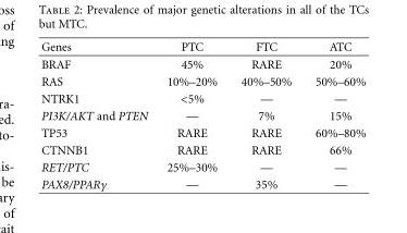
<table><thead><tr><td>Genes</td><td>PTC</td><td>FTC</td><td>ATC</td></tr></thead><tbody><tr><td>BRAF</td><td>45%</td><td>RARE</td><td>20%</td></tr><tr><td>RAS</td><td>10%–20%</td><td>40%–50%</td><td>50%–60%</td></tr><tr><td>NTRK1</td><td>&lt;5%</td><td>—</td><td>—</td></tr><tr><td>PI3K/AKT and PTEN</td><td>—</td><td>7%</td><td>15%</td></tr><tr><td>TP53</td><td>RARE</td><td>RARE</td><td>60%–80%</td></tr><tr><td>CTNNB1</td><td>RARE</td><td>RARE</td><td>66%</td></tr><tr><td>RET/PTC</td><td>25%–30%</td><td>—</td><td>—</td></tr><tr><td>PAX8/PPARγ</td><td>—</td><td>35%</td><td>—</td></tr></tbody></table>